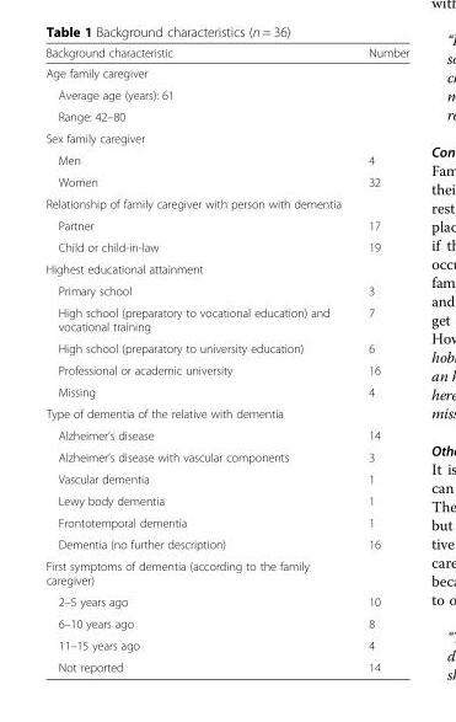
<table><thead><tr><td>Background characteristic</td><td>Number</td></tr></thead><tbody><tr><td colspan="2">Age family caregiver</td></tr><tr><td colspan="2">Average age (years): 61</td></tr><tr><td colspan="2">Range: 42–80</td></tr><tr><td colspan="2">Sex family caregiver</td></tr><tr><td>Men</td><td>4</td></tr><tr><td>Women</td><td>32</td></tr><tr><td colspan="2">Relationship of family caregiver with person with dementia</td></tr><tr><td>Partner</td><td>17</td></tr><tr><td>Child or child-in-law</td><td>19</td></tr><tr><td colspan="2">Highest educational attainment</td></tr><tr><td>Primary school</td><td>3</td></tr><tr><td>High school (preparatory to vocational education) and vocational training</td><td>7</td></tr><tr><td>High school (preparatory to university education)</td><td>6</td></tr><tr><td>Professional or academic university</td><td>16</td></tr><tr><td>Missing</td><td>4</td></tr><tr><td colspan="2">Type of dementia of the relative with dementia</td></tr><tr><td>Alzheimer’s disease</td><td>14</td></tr><tr><td>Alzheimer’s disease with vascular components</td><td>3</td></tr><tr><td>Vascular dementia</td><td>1</td></tr><tr><td>Lewy body dementia</td><td>1</td></tr><tr><td>Frontotemporal dementia</td><td>1</td></tr><tr><td>Dementia (no further description)</td><td>16</td></tr><tr><td colspan="2">First symptoms of dementia (according to the family caregiver)</td></tr><tr><td>2–5 years ago</td><td>10</td></tr><tr><td>6–10 years ago</td><td>8</td></tr><tr><td>11–15 years ago</td><td>4</td></tr><tr><td>Not reported</td><td>14</td></tr></tbody></table>